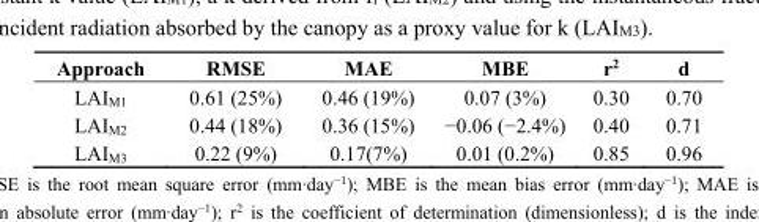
<table><thead><tr><td>Approach</td><td>RMSE</td><td>MAE</td><td>MBE</td><td>r<sup>2</sup></td><td>d</td></tr></thead><tbody><tr><td>LAI<sub>M1</sub></td><td>0.61 (25%)</td><td>0.46 (19%)</td><td>0.07 (3%)</td><td>0.30</td><td>0.70</td></tr><tr><td>LAI<sub>M2</sub></td><td>0.44 (18%)</td><td>0.36 (15%)</td><td>−0.06 (−2.4%)</td><td>0.40</td><td>0.71</td></tr><tr><td>LAI<sub>M3</sub></td><td>0.22 (9%)</td><td>0.17(7%)</td><td>0.01 (0.2%)</td><td>0.85</td><td>0.96</td></tr></tbody></table>